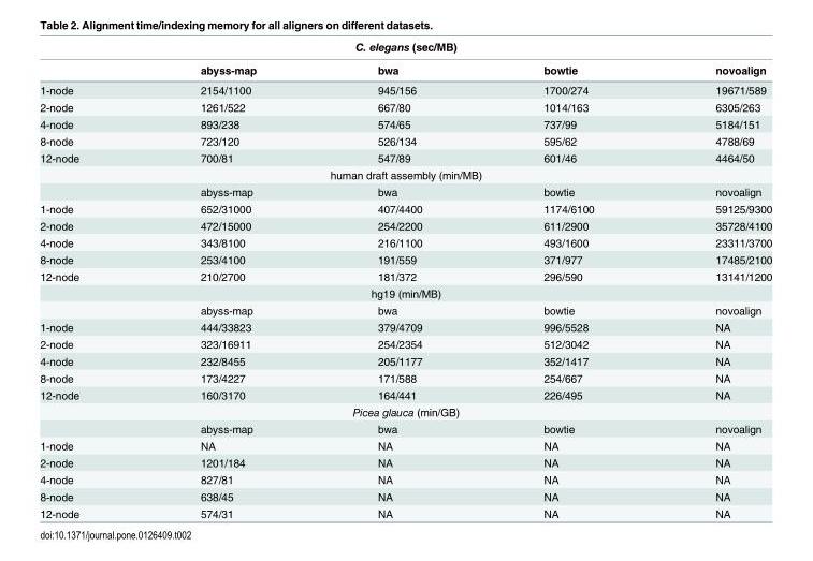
<table><thead><tr><td colspan="5">C. elegans (sec/MB)</td></tr><tr><td></td><td>abyss-map</td><td>bwa</td><td>bowtie</td><td>novoalign</td></tr></thead><tbody><tr><td>1-node</td><td>2154/1100</td><td>945/156</td><td>1700/274</td><td>19671/589</td></tr><tr><td>2-node</td><td>1261/522</td><td>667/80</td><td>1014/163</td><td>6305/263</td></tr><tr><td>4-node</td><td>893/238</td><td>574/65</td><td>737/99</td><td>5184/151</td></tr><tr><td>8-node</td><td>723/120</td><td>526/134</td><td>595/62</td><td>4788/69</td></tr><tr><td>12-node</td><td>700/81</td><td>547/89</td><td>601/46</td><td>4464/50</td></tr><tr><td colspan="5">human draft assembly (min/MB)</td></tr><tr><td></td><td>abyss-map</td><td>bwa</td><td>bowtie</td><td>novoalign</td></tr><tr><td>1-node</td><td>652/31000</td><td>407/4400</td><td>1174/6100</td><td>59125/9300</td></tr><tr><td>2-node</td><td>472/15000</td><td>254/2200</td><td>611/2900</td><td>35728/4100</td></tr><tr><td>4-node</td><td>343/8100</td><td>216/1100</td><td>493/1600</td><td>23311/3700</td></tr><tr><td>8-node</td><td>253/4100</td><td>191/559</td><td>371/977</td><td>17485/2100</td></tr><tr><td>12-node</td><td>210/2700</td><td>181/372</td><td>296/590</td><td>13141/1200</td></tr><tr><td colspan="5">hg19 (min/MB)</td></tr><tr><td></td><td>abyss-map</td><td>bwa</td><td>bowtie</td><td>novoalign</td></tr><tr><td>1-node</td><td>444/33823</td><td>379/4709</td><td>996/5528</td><td>NA</td></tr><tr><td>2-node</td><td>323/16911</td><td>254/2354</td><td>512/3042</td><td>NA</td></tr><tr><td>4-node</td><td>232/8455</td><td>205/1177</td><td>352/1417</td><td>NA</td></tr><tr><td>8-node</td><td>173/4227</td><td>171/588</td><td>254/667</td><td>NA</td></tr><tr><td>12-node</td><td>160/3170</td><td>164/441</td><td>226/495</td><td>NA</td></tr><tr><td colspan="5">Picea glauca (min/GB)</td></tr><tr><td></td><td>abyss-map</td><td>bwa</td><td>bowtie</td><td>novoalign</td></tr><tr><td>1-node</td><td>NA</td><td>NA</td><td>NA</td><td>NA</td></tr><tr><td>2-node</td><td>1201/184</td><td>NA</td><td>NA</td><td>NA</td></tr><tr><td>4-node</td><td>827/81</td><td>NA</td><td>NA</td><td>NA</td></tr><tr><td>8-node</td><td>638/45</td><td>NA</td><td>NA</td><td>NA</td></tr><tr><td>12-node</td><td>574/31</td><td>NA</td><td>NA</td><td>NA</td></tr></tbody></table>